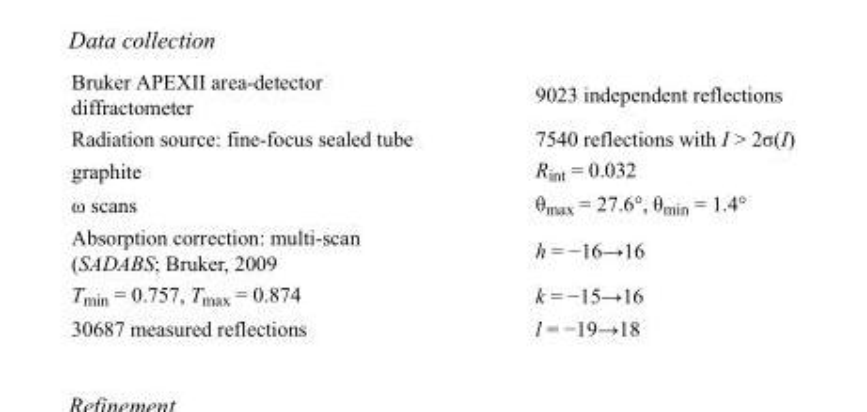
<table><tbody><tr><td>Bruker APEXII area-detector diffractometer</td><td>9023 independent reflections</td></tr><tr><td>Radiation source: fine-focus sealed tube</td><td>7540 reflections with I &gt; 2σ(I)</td></tr><tr><td>graphite</td><td>R<sub>int</sub> = 0.032</td></tr><tr><td>ω scans</td><td>θ<sub>max</sub> = 27.6°, θ<sub>min</sub> = 1.4°</td></tr><tr><td>Absorption correction: multi-scan (SADABS; Bruker, 2009</td><td>h = −16→16</td></tr><tr><td>T<sub>min</sub> = 0.757, T<sub>max</sub> = 0.874</td><td>k = −15→16</td></tr><tr><td>30687 measured reflections</td><td>l = −19→18</td></tr></tbody></table>